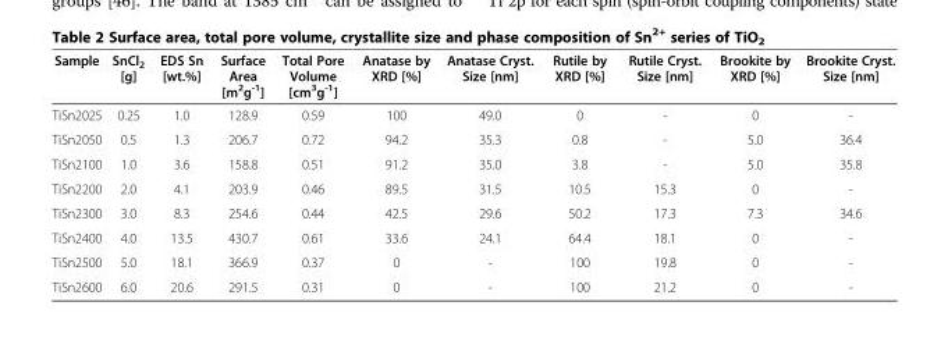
<table><thead><tr><td>Sample</td><td>SnCl<sub>2</sub> [g]</td><td>EDS Sn [wt.%]</td><td>Surface Area [m<sup>2</sup>g<sup>-1</sup>]</td><td>Total Pore Volume [cm<sup>3</sup>g<sup>-1</sup>]</td><td>Anatase by XRD [%]</td><td>Anatase Cryst. Size [nm]</td><td>Rutile by XRD [%]</td><td>Rutile Cryst. Size [nm]</td><td>Brookite by XRD [%]</td><td>Brookite Cryst. Size [nm]</td></tr></thead><tbody><tr><td>TiSn2025</td><td>0.25</td><td>1.0</td><td>128.9</td><td>0.59</td><td>100</td><td>49.0</td><td>0</td><td>-</td><td>0</td><td>-</td></tr><tr><td>TiSn2050</td><td>0.5</td><td>1.3</td><td>206.7</td><td>0.72</td><td>94.2</td><td>35.3</td><td>0.8</td><td>-</td><td>5.0</td><td>36.4</td></tr><tr><td>TiSn2100</td><td>1.0</td><td>3.6</td><td>158.8</td><td>0.51</td><td>91.2</td><td>35.0</td><td>3.8</td><td>-</td><td>5.0</td><td>35.8</td></tr><tr><td>TiSn2200</td><td>2.0</td><td>4.1</td><td>203.9</td><td>0.46</td><td>89.5</td><td>31.5</td><td>10.5</td><td>15.3</td><td>0</td><td>-</td></tr><tr><td>TiSn2300</td><td>3.0</td><td>8.3</td><td>254.6</td><td>0.44</td><td>42.5</td><td>29.6</td><td>50.2</td><td>17.3</td><td>7.3</td><td>34.6</td></tr><tr><td>TiSn2400</td><td>4.0</td><td>13.5</td><td>430.7</td><td>0.61</td><td>33.6</td><td>24.1</td><td>64.4</td><td>18.1</td><td>0</td><td>-</td></tr><tr><td>TiSn2500</td><td>5.0</td><td>18.1</td><td>366.9</td><td>0.37</td><td>0</td><td>-</td><td>100</td><td>19.8</td><td>0</td><td>-</td></tr><tr><td>TiSn2600</td><td>6.0</td><td>20.6</td><td>291.5</td><td>0.31</td><td>0</td><td>-</td><td>100</td><td>21.2</td><td>0</td><td>-</td></tr></tbody></table>